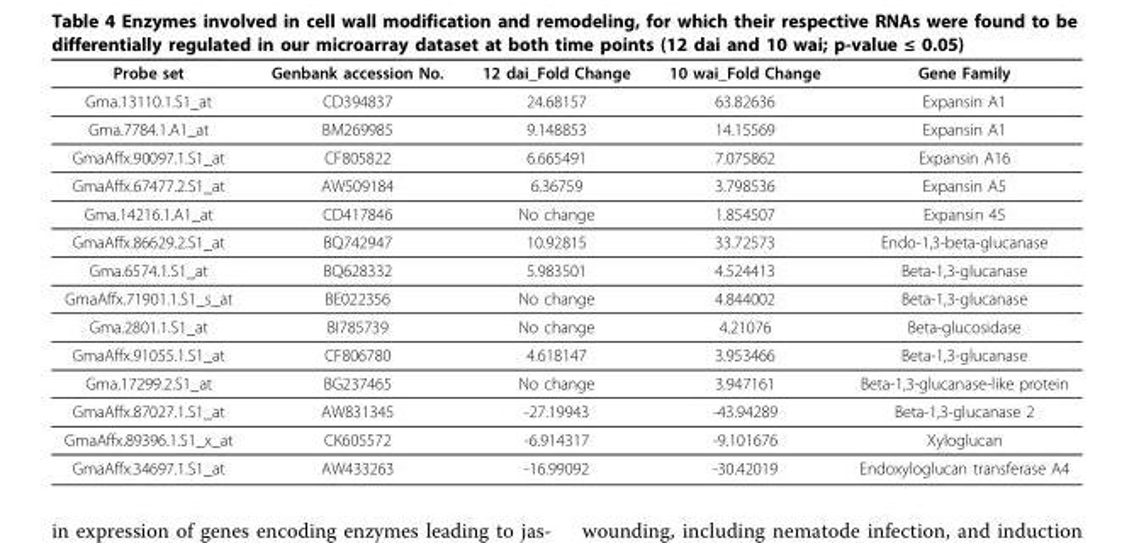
<table><thead><tr><td>Probe set</td><td>Genbank accession No.</td><td>12 dai_Fold Change</td><td>10 wai_Fold Change</td><td>Gene Family</td></tr></thead><tbody><tr><td>Gma.13110.1.S1_at</td><td>CD394837</td><td>24.68157</td><td>63.82636</td><td>Expansin A1</td></tr><tr><td>Gma.7784.1.A1_at</td><td>BM269985</td><td>9.148853</td><td>14.15569</td><td>Expansin A1</td></tr><tr><td>GmaAffx.90097.1.S1_at</td><td>CF805822</td><td>6.665491</td><td>7.075862</td><td>Expansin A16</td></tr><tr><td>GmaAffx.67477.2.S1_at</td><td>AW509184</td><td>6.36759</td><td>3.798536</td><td>Expansin A5</td></tr><tr><td>Gma.14216.1.A1_at</td><td>CD417846</td><td>No change</td><td>1.854507</td><td>Expansin 45</td></tr><tr><td>GmaAffx.86629.2.S1_at</td><td>BQ742947</td><td>10.92815</td><td>33.72573</td><td>Endo-1,3-beta-glucanase</td></tr><tr><td>Gma.6574.1.S1_at</td><td>BQ628332</td><td>5.983501</td><td>4.524413</td><td>Beta-1,3-glucanase</td></tr><tr><td>GmaAffx.71901.1.S1_s_at</td><td>BE022356</td><td>No change</td><td>4.844002</td><td>Beta-1,3-glucanase</td></tr><tr><td>Gma.2801.1.S1_at</td><td>BI785739</td><td>No change</td><td>4.21076</td><td>Beta-glucosidase</td></tr><tr><td>GmaAffx.91055.1.S1_at</td><td>CF806780</td><td>4.618147</td><td>3.953466</td><td>Beta-1,3-glucanase</td></tr><tr><td>Gma.17299.2.S1_at</td><td>BG237465</td><td>No change</td><td>3.947161</td><td>Beta-1,3-glucanase-like protein</td></tr><tr><td>GmaAffx.87027.1.S1_at</td><td>AW831345</td><td>-27.19943</td><td>-43.94289</td><td>Beta-1,3-glucanase 2</td></tr><tr><td>GmaAffx.89396.1.S1_x_at</td><td>CK605572</td><td>-6.914317</td><td>-9.101676</td><td>Xyloglucan</td></tr><tr><td>GmaAffx.34697.1.S1_at</td><td>AW433263</td><td>-16.99092</td><td>-30.42019</td><td>Endoxyloglucan transferase A4</td></tr></tbody></table>